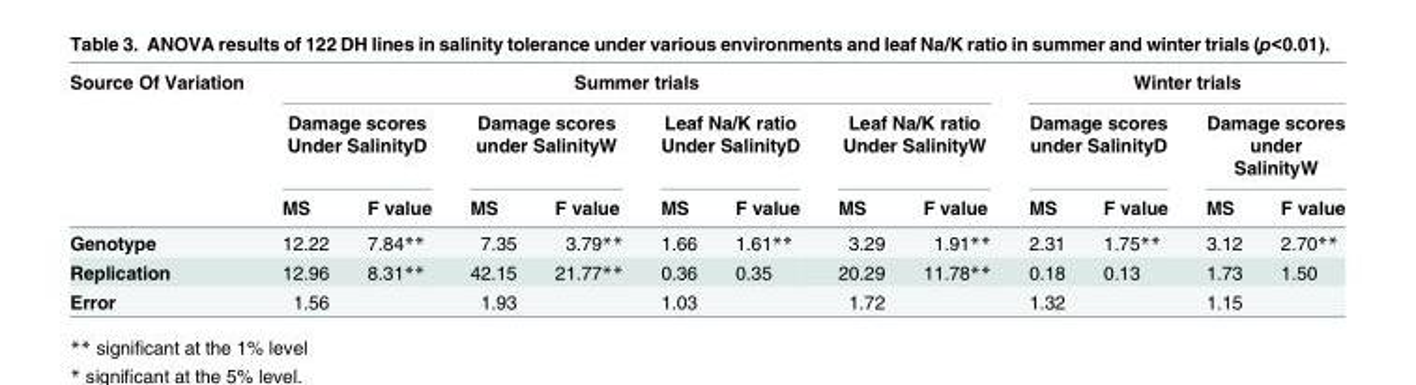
<table><thead><tr><td rowspan="3">Source Of Variation</td><td colspan="8">Summer trials</td><td colspan="4">Winter trials</td></tr><tr><td colspan="2">Damage scores Under SalinityD</td><td colspan="2">Damage scores under SalinityW</td><td colspan="2">Leaf Na/K ratio Under SalinityD</td><td colspan="2">Leaf Na/K ratio Under SalinityW</td><td colspan="2">Damage scores under SalinityD</td><td colspan="2">Damage scores under SalinityW</td></tr><tr><td>MS</td><td>F value</td><td>MS</td><td>F value</td><td>MS</td><td>F value</td><td>MS</td><td>F value</td><td>MS</td><td>F value</td><td>MS</td><td>F value</td></tr></thead><tbody><tr><td>Genotype</td><td>12.22</td><td>7.84**</td><td>7.35</td><td>3.79**</td><td>1.66</td><td>1.61**</td><td>3.29</td><td>1.91**</td><td>2.31</td><td>1.75**</td><td>3.12</td><td>2.70**</td></tr><tr><td>Replication</td><td>12.96</td><td>8.31**</td><td>42.15</td><td>21.77**</td><td>0.36</td><td>0.35</td><td>20.29</td><td>11.78**</td><td>0.18</td><td>0.13</td><td>1.73</td><td>1.50</td></tr><tr><td>Error</td><td>1.56</td><td></td><td>1.93</td><td></td><td>1.03</td><td></td><td>1.72</td><td></td><td>1.32</td><td></td><td>1.15</td><td></td></tr></tbody></table>